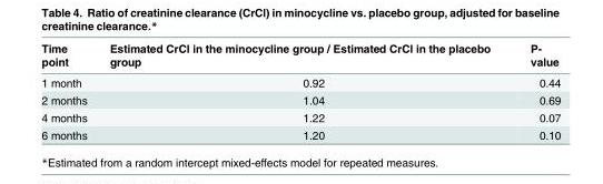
<table><thead><tr><td>Time point</td><td>Estimated CrCl in the minocycline group / Estimated CrCl in the placebo group</td><td>P- value</td></tr></thead><tbody><tr><td>1 month</td><td>0.92</td><td>0.44</td></tr><tr><td>2 months</td><td>1.04</td><td>0.69</td></tr><tr><td>4 months</td><td>1.22</td><td>0.07</td></tr><tr><td>6 months</td><td>1.20</td><td>0.10</td></tr></tbody></table>